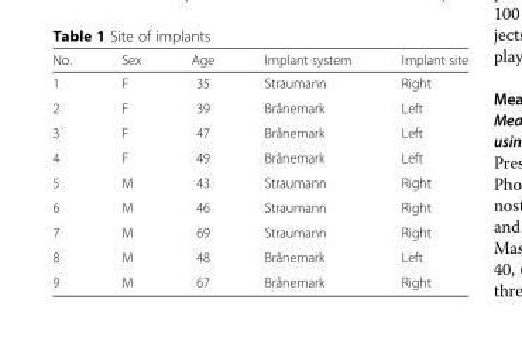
<table><thead><tr><td>No.</td><td>Sex</td><td>Age</td><td>Implant system</td><td>Implant site</td></tr></thead><tbody><tr><td>1</td><td>F</td><td>35</td><td>Straumann</td><td>Right</td></tr><tr><td>2</td><td>F</td><td>39</td><td>Brånemark</td><td>Left</td></tr><tr><td>3</td><td>F</td><td>47</td><td>Brånemark</td><td>Left</td></tr><tr><td>4</td><td>F</td><td>49</td><td>Brånemark</td><td>Left</td></tr><tr><td>5</td><td>M</td><td>43</td><td>Straumann</td><td>Right</td></tr><tr><td>6</td><td>M</td><td>46</td><td>Straumann</td><td>Right</td></tr><tr><td>7</td><td>M</td><td>69</td><td>Straumann</td><td>Right</td></tr><tr><td>8</td><td>M</td><td>48</td><td>Brånemark</td><td>Left</td></tr><tr><td>9</td><td>M</td><td>67</td><td>Brånemark</td><td>Right</td></tr></tbody></table>